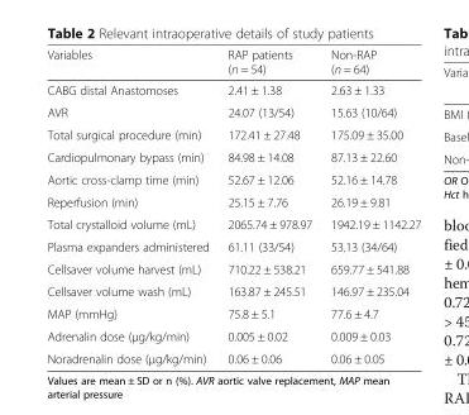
<table><thead><tr><td>Variables</td><td>RAP patients (n = 54)</td><td>Non-RAP (n = 64)</td></tr></thead><tbody><tr><td>CABG distal Anastomoses</td><td>2.41 ± 1.38</td><td>2.63 ± 1.33</td></tr><tr><td>AVR</td><td>24.07 (13/54)</td><td>15.63 (10/64)</td></tr><tr><td>Total surgical procedure (min)</td><td>172.41 ± 27.48</td><td>175.09 ± 35.00</td></tr><tr><td>Cardiopulmonary bypass (min)</td><td>84.98 ± 14.08</td><td>87.13 ± 22.60</td></tr><tr><td>Aortic cross-clamp time (min)</td><td>52.67 ± 12.06</td><td>52.16 ± 14.78</td></tr><tr><td>Reperfusion (min)</td><td>25.15 ± 7.76</td><td>26.19 ± 9.81</td></tr><tr><td>Total crystalloid volume (mL)</td><td>2065.74 ± 978.97</td><td>1942.19 ± 1142.27</td></tr><tr><td>Plasma expanders administered</td><td>61.11 (33/54)</td><td>53.13 (34/64)</td></tr><tr><td>Cellsaver volume harvest (mL)</td><td>710.22 ± 538.21</td><td>659.77 ± 541.88</td></tr><tr><td>Cellsaver volume wash (mL)</td><td>163.87 ± 245.51</td><td>146.97 ± 235.04</td></tr><tr><td>MAP (mmHg)</td><td>75.8 ± 5.1</td><td>77.6 ± 4.7</td></tr><tr><td>Adrenalin dose (μg/kg/min)</td><td>0.005 ± 0.02</td><td>0.009 ± 0.03</td></tr><tr><td>Noradrenalin dose (μg/kg/min)</td><td>0.06 ± 0.06</td><td>0.06 ± 0.05</td></tr></tbody></table>